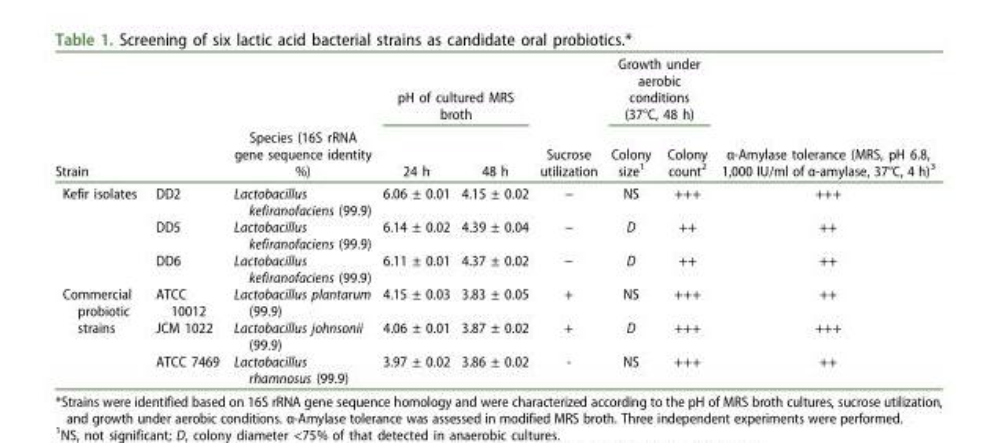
<table><thead><tr><td></td><td></td><td rowspan="2">Species (16S rRNA gene sequence identity %)</td><td colspan="2">pH of cultured MRS broth</td><td rowspan="2">Sucrose utilization</td><td colspan="2">Growth under aerobic conditions (37°C, 48 h)</td><td rowspan="2">α-Amylase tolerance (MRS, pH 6.8, 1,000 IU/ml of α-amylase, 37°C, 4 h)<sup>3</sup></td></tr><tr><td colspan="2">Strain</td><td>24 h</td><td>48 h</td><td>Colony size<sup>1</sup></td><td>Colony count<sup>2</sup></td></tr></thead><tbody><tr><td rowspan="3">Kefir isolates</td><td>DD2</td><td>Lactobacillus kefiranofaciens (99.9)</td><td>6.06 ± 0.01</td><td>4.15 ± 0.02</td><td>−</td><td>NS</td><td>+++</td><td>+++</td></tr><tr><td>DD5</td><td>Lactobacillus kefiranofaciens (99.9)</td><td>6.14 ± 0.02</td><td>4.39 ± 0.04</td><td>−</td><td>D</td><td>++</td><td>++</td></tr><tr><td>DD6</td><td>Lactobacillus kefiranofaciens (99.9)</td><td>6.11 ± 0.01</td><td>4.37 ± 0.02</td><td>−</td><td>D</td><td>++</td><td>++</td></tr><tr><td rowspan="3">Commercial probiotic strains</td><td>ATCC 10012</td><td>Lactobacillus plantarum (99.9)</td><td>4.15 ± 0.03</td><td>3.83 ± 0.05</td><td>+</td><td>NS</td><td>+++</td><td>++</td></tr><tr><td>JCM 1022</td><td>Lactobacillus johnsonii (99.9)</td><td>4.06 ± 0.01</td><td>3.87 ± 0.02</td><td>+</td><td>D</td><td>+++</td><td>+++</td></tr><tr><td>ATCC 7469</td><td>Lactobacillus rhamnosus (99.9)</td><td>3.97 ± 0.02</td><td>3.86 ± 0.02</td><td>-</td><td>NS</td><td>+++</td><td>++</td></tr></tbody></table>